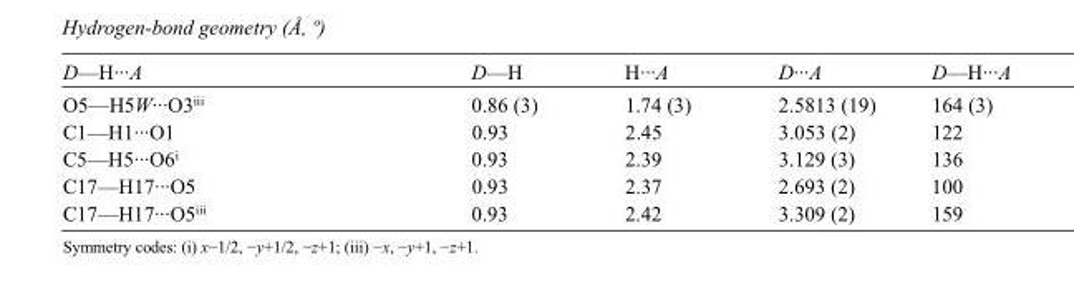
<table><tbody><tr><td>D—H···A</td><td>D—H</td><td>H···A</td><td>D···A</td><td>D—H···A</td></tr><tr><td>O5—H5W···O3<sup>iii</sup></td><td>0.86 (3)</td><td>1.74 (3)</td><td>2.5813 (19)</td><td>164 (3)</td></tr><tr><td>C1—H1···O1</td><td>0.93</td><td>2.45</td><td>3.053 (2)</td><td>122</td></tr><tr><td>C5—H5···O6<sup>i</sup></td><td>0.93</td><td>2.39</td><td>3.129 (3)</td><td>136</td></tr><tr><td>C17—H17···O5</td><td>0.93</td><td>2.37</td><td>2.693 (2)</td><td>100</td></tr><tr><td>C17—H17···O5<sup>iii</sup></td><td>0.93</td><td>2.42</td><td>3.309 (2)</td><td>159</td></tr></tbody></table>